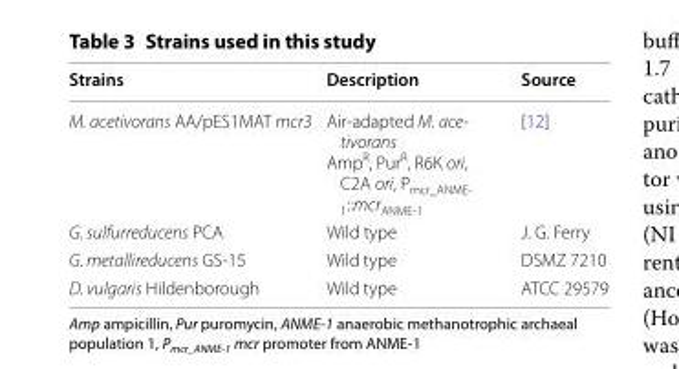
<table><thead><tr><td>Strains</td><td>Description</td><td>Source</td></tr></thead><tbody><tr><td>M. acetivorans AA/pES1MAT mcr3</td><td>Air-adapted M. ace- tivorans AmpR, PurR, R6K ori, C2A ori, Pmcr_ANME- 1::mcrANME-1</td><td>[12]</td></tr><tr><td>G. sulfurreducens PCA</td><td>Wild type</td><td>J. G. Ferry</td></tr><tr><td>G. metallireducens GS-15</td><td>Wild type</td><td>DSMZ 7210</td></tr><tr><td>D. vulgaris Hildenborough</td><td>Wild type</td><td>ATCC 29579</td></tr></tbody></table>